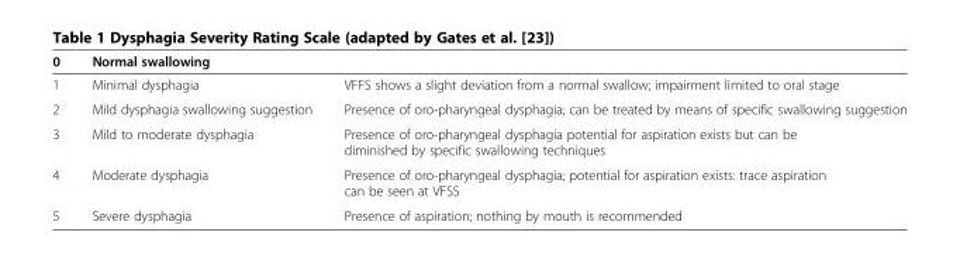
<table><thead><tr><td>0</td><td>Normal swallowing</td><td></td></tr></thead><tbody><tr><td>1</td><td>Minimal dysphagia</td><td>VFFS shows a slight deviation from a normal swallow; impairment limited to oral stage</td></tr><tr><td>2</td><td>Mild dysphagia swallowing suggestion</td><td>Presence of oro-pharyngeal dysphagia; can be treated by means of specific swallowing suggestion</td></tr><tr><td>3</td><td>Mild to moderate dysphagia</td><td>Presence of oro-pharyngeal dysphagia potential for aspiration exists but can be diminished by specific swallowing techniques</td></tr><tr><td>4</td><td>Moderate dysphagia</td><td>Presence of oro-pharyngeal dysphagia; potential for aspiration exists: trace aspiration can be seen at VFSS</td></tr><tr><td>5</td><td>Severe dysphagia</td><td>Presence of aspiration; nothing by mouth is recommended</td></tr></tbody></table>